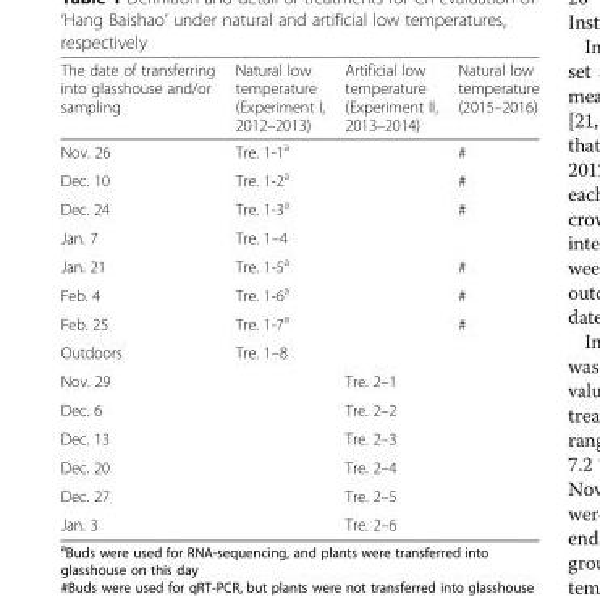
<table><thead><tr><td>The date of transferring into glasshouse and/or sampling</td><td>Natural low temperature (Experiment I, 2012–2013)</td><td>Artificial low temperature (Experiment II, 2013–2014)</td><td>Natural low temperature (2015–2016)</td></tr></thead><tbody><tr><td>Nov. 26</td><td>Tre. 1-1<sup>a</sup></td><td></td><td>#</td></tr><tr><td>Dec. 10</td><td>Tre. 1-2<sup>a</sup></td><td></td><td>#</td></tr><tr><td>Dec. 24</td><td>Tre. 1-3<sup>a</sup></td><td></td><td>#</td></tr><tr><td>Jan. 7</td><td>Tre. 1–4</td><td></td><td></td></tr><tr><td>Jan. 21</td><td>Tre. 1-5<sup>a</sup></td><td></td><td>#</td></tr><tr><td>Feb. 4</td><td>Tre. 1-6<sup>a</sup></td><td></td><td>#</td></tr><tr><td>Feb. 25</td><td>Tre. 1-7<sup>a</sup></td><td></td><td>#</td></tr><tr><td>Outdoors</td><td>Tre. 1–8</td><td></td><td></td></tr><tr><td>Nov. 29</td><td></td><td>Tre. 2–1</td><td></td></tr><tr><td>Dec. 6</td><td></td><td>Tre. 2–2</td><td></td></tr><tr><td>Dec. 13</td><td></td><td>Tre. 2–3</td><td></td></tr><tr><td>Dec. 20</td><td></td><td>Tre. 2–4</td><td></td></tr><tr><td>Dec. 27</td><td></td><td>Tre. 2–5</td><td></td></tr><tr><td>Jan. 3</td><td></td><td>Tre. 2–6</td><td></td></tr></tbody></table>